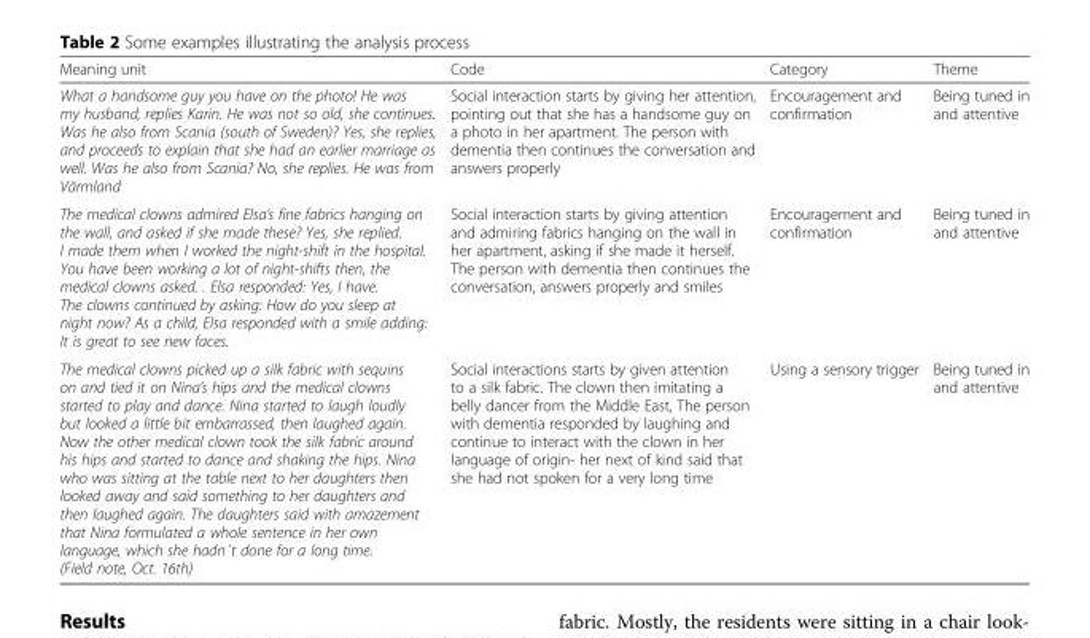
<table><thead><tr><td>Meaning unit</td><td>Code</td><td>Category</td><td>Theme</td></tr></thead><tbody><tr><td>What a handsome guy you have on the photo! He was my husband, replies Karin. He was not so old, she continues. Was he also from Scania (south of Sweden)? Yes, she replies, and proceeds to explain that she had an earlier marriage as well. Was he also from Scania? No, she replies. He was from Värmland</td><td>Social interaction starts by giving her attention, pointing out that she has a handsome guy on a photo in her apartment. The person with dementia then continues the conversation and answers properly</td><td>Encouragement and confirmation</td><td>Being tuned in and attentive</td></tr><tr><td>The medical clowns admired Elsa’s fine fabrics hanging on the wall, and asked if she made these? Yes, she replied. I made them when I worked the night-shift in the hospital. You have been working a lot of night-shifts then, the medical clowns asked. . Elsa responded: Yes, I have. The clowns continued by asking: How do you sleep at night now? As a child, Elsa responded with a smile adding: It is great to see new faces.</td><td>Social interaction starts by giving attention and admiring fabrics hanging on the wall in her apartment, asking if she made it herself. The person with dementia then continues the conversation, answers properly and smiles</td><td>Encouragement and confirmation</td><td>Being tuned in and attentive</td></tr><tr><td>The medical clowns picked up a silk fabric with sequins on and tied it on Nina’s hips and the medical clowns started to play and dance. Nina started to laugh loudly but looked a little bit embarrassed, then laughed again. Now the other medical clown took the silk fabric around his hips and started to dance and shaking the hips. Nina who was sitting at the table next to her daughters then looked away and said something to her daughters and then laughed again. The daughters said with amazement that Nina formulated a whole sentence in her own language, which she hadn´t done for a long time. (Field note, Oct. 16th)</td><td>Social interactions starts by given attention to a silk fabric. The clown then imitating a belly dancer from the Middle East, The person with dementia responded by laughing and continue to interact with the clown in her language of origin- her next of kind said that she had not spoken for a very long time</td><td>Using a sensory trigger</td><td>Being tuned in and attentive</td></tr></tbody></table>